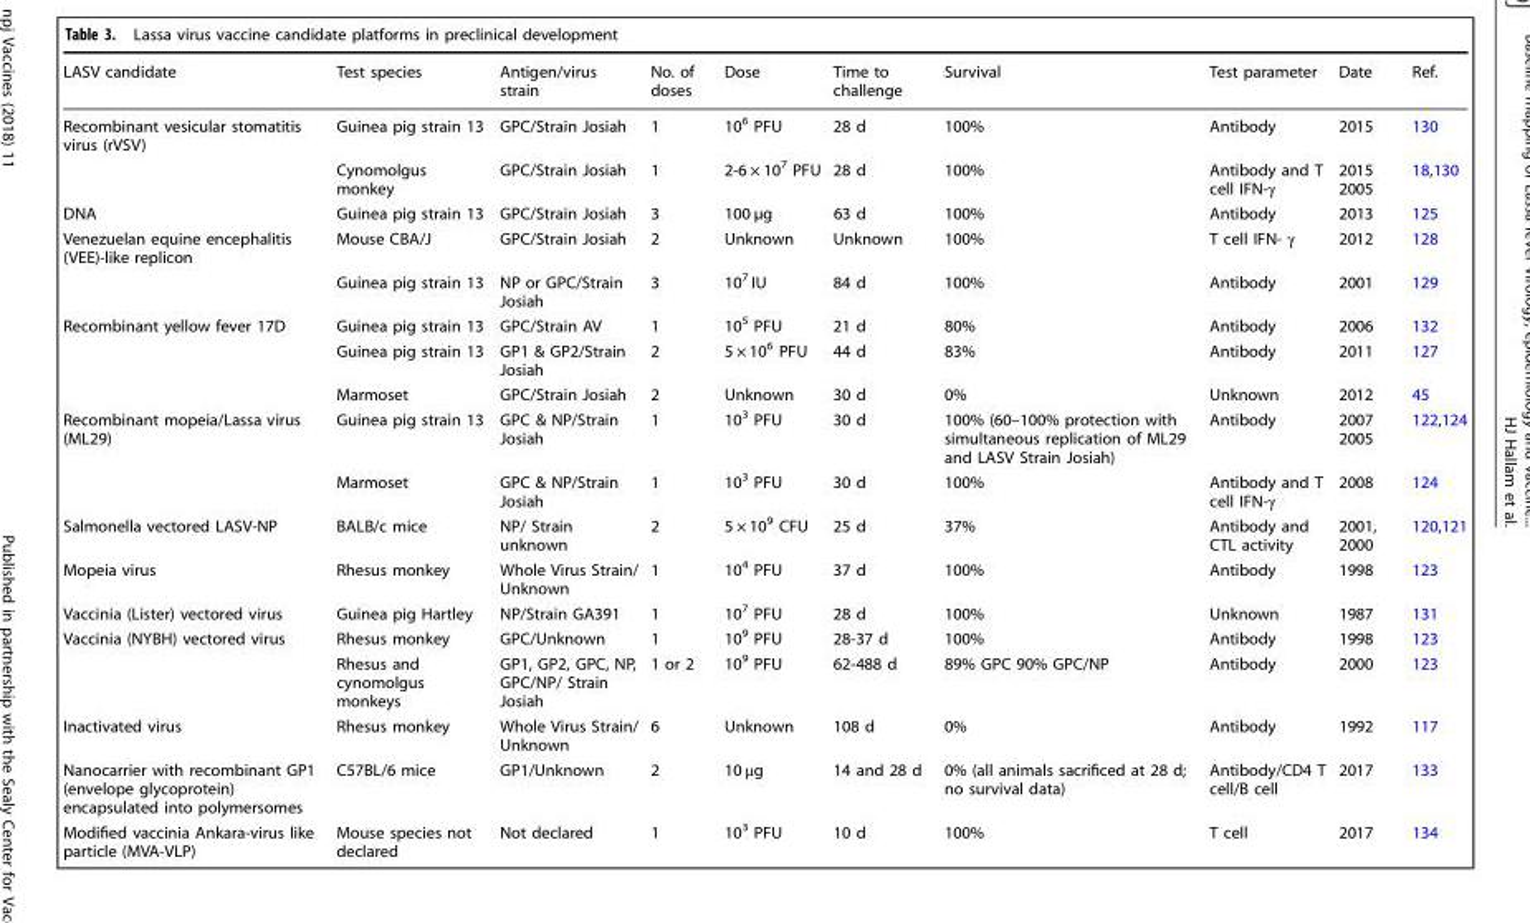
<table><thead><tr><td>LASV candidate</td><td>Test species</td><td>Antigen/virus strain</td><td>No. of doses</td><td>Dose</td><td>Time to challenge</td><td>Survival</td><td>Test parameter</td><td>Date</td><td>Ref.</td></tr></thead><tbody><tr><td rowspan="2">Recombinant vesicular stomatitis virus (rVSV)</td><td>Guinea pig strain 13</td><td>GPC/Strain Josiah</td><td>1</td><td>10<sup>6</sup> PFU</td><td>28 d</td><td>100%</td><td>Antibody</td><td>2015</td><td>130</td></tr><tr><td>Cynomolgus monkey</td><td>GPC/Strain Josiah</td><td>1</td><td>2-6 × 10<sup>7</sup> PFU</td><td>28 d</td><td>100%</td><td>Antibody and T cell IFN-γ</td><td>2015 2005</td><td>18,130</td></tr><tr><td>DNA</td><td>Guinea pig strain 13</td><td>GPC/Strain Josiah</td><td>3</td><td>100 µg</td><td>63 d</td><td>100%</td><td>Antibody</td><td>2013</td><td>125</td></tr><tr><td rowspan="2">Venezuelan equine encephalitis (VEE)-like replicon</td><td>Mouse CBA/J</td><td>GPC/Strain Josiah</td><td>2</td><td>Unknown</td><td>Unknown</td><td>100%</td><td>T cell IFN- γ</td><td>2012</td><td>128</td></tr><tr><td>Guinea pig strain 13</td><td>NP or GPC/Strain Josiah</td><td>3</td><td>10<sup>7</sup> IU</td><td>84 d</td><td>100%</td><td>Antibody</td><td>2001</td><td>129</td></tr><tr><td rowspan="3">Recombinant yellow fever 17D</td><td>Guinea pig strain 13</td><td>GPC/Strain AV</td><td>1</td><td>10<sup>5</sup> PFU</td><td>21 d</td><td>80%</td><td>Antibody</td><td>2006</td><td>132</td></tr><tr><td>Guinea pig strain 13</td><td>GP1 &amp; GP2/Strain Josiah</td><td>2</td><td>5 × 10<sup>6</sup> PFU</td><td>44 d</td><td>83%</td><td>Antibody</td><td>2011</td><td>127</td></tr><tr><td>Marmoset</td><td>GPC/Strain Josiah</td><td>2</td><td>Unknown</td><td>30 d</td><td>0%</td><td>Unknown</td><td>2012</td><td>45</td></tr><tr><td rowspan="2">Recombinant mopeia/Lassa virus (ML29)</td><td>Guinea pig strain 13</td><td>GPC &amp; NP/Strain Josiah</td><td>1</td><td>10<sup>3</sup> PFU</td><td>30 d</td><td>100% (60–100% protection with simultaneous replication of ML29 and LASV Strain Josiah)</td><td>Antibody</td><td>2007 2005</td><td>122,124</td></tr><tr><td>Marmoset</td><td>GPC &amp; NP/Strain Josiah</td><td>1</td><td>10<sup>3</sup> PFU</td><td>30 d</td><td>100%</td><td>Antibody and T cell IFN-γ</td><td>2008</td><td>124</td></tr><tr><td>Salmonella vectored LASV-NP</td><td>BALB/c mice</td><td>NP/ Strain unknown</td><td>2</td><td>5 × 10<sup>9</sup> CFU</td><td>25 d</td><td>37%</td><td>Antibody and CTL activity</td><td>2001, 2000</td><td>120,121</td></tr><tr><td>Mopeia virus</td><td>Rhesus monkey</td><td>Whole Virus Strain/ Unknown</td><td>1</td><td>10<sup>4</sup> PFU</td><td>37 d</td><td>100%</td><td>Antibody</td><td>1998</td><td>123</td></tr><tr><td>Vaccinia (Lister) vectored virus</td><td>Guinea pig Hartley</td><td>NP/Strain GA391</td><td>1</td><td>10<sup>7</sup> PFU</td><td>28 d</td><td>100%</td><td>Unknown</td><td>1987</td><td>131</td></tr><tr><td rowspan="2">Vaccinia (NYBH) vectored virus</td><td>Rhesus monkey</td><td>GPC/Unknown</td><td>1</td><td>10<sup>9</sup> PFU</td><td>28-37 d</td><td>100%</td><td>Antibody</td><td>1998</td><td>123</td></tr><tr><td>Rhesus and cynomolgus monkeys</td><td>GP1, GP2, GPC, NP, GPC/NP/ Strain Josiah</td><td>1 or 2</td><td>10<sup>9</sup> PFU</td><td>62-488 d</td><td>89% GPC 90% GPC/NP</td><td>Antibody</td><td>2000</td><td>123</td></tr><tr><td>Inactivated virus</td><td>Rhesus monkey</td><td>Whole Virus Strain/ Unknown</td><td>6</td><td>Unknown</td><td>108 d</td><td>0%</td><td>Antibody</td><td>1992</td><td>117</td></tr><tr><td>Nanocarrier with recombinant GP1 (envelope glycoprotein) encapsulated into polymersomes</td><td>C57BL/6 mice</td><td>GP1/Unknown</td><td>2</td><td>10 μg</td><td>14 and 28 d</td><td>0% (all animals sacrificed at 28 d; no survival data)</td><td>Antibody/CD4 T cell/B cell</td><td>2017</td><td>133</td></tr><tr><td>Modified vaccinia Ankara-virus like particle (MVA-VLP)</td><td>Mouse species not declared</td><td>Not declared</td><td>1</td><td>10<sup>3</sup> PFU</td><td>10 d</td><td>100%</td><td>T cell</td><td>2017</td><td>134</td></tr></tbody></table>